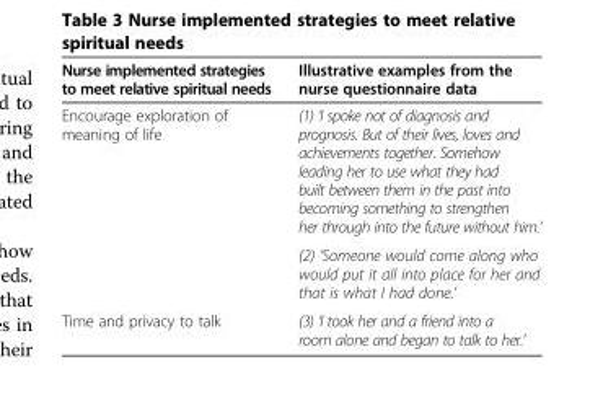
<table><thead><tr><td>Nurse implemented strategies to meet relative spiritual needs</td><td>Illustrative examples from the nurse questionnaire data</td></tr></thead><tbody><tr><td rowspan="2">Encourage exploration of meaning of life</td><td>(1) ‘I spoke not of diagnosis and prognosis. But of their lives, loves and achievements together. Somehow leading her to use what they had built between them in the past into becoming something to strengthen her through into the future without him.’</td></tr><tr><td>(2) ‘Someone would come along who would put it all into place for her and that is what I had done.’</td></tr><tr><td>Time and privacy to talk</td><td>(3) ‘I took her and a friend into a room alone and began to talk to her.’</td></tr></tbody></table>